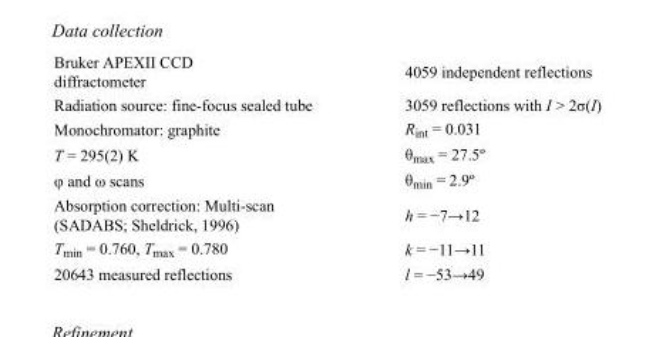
<table><tbody><tr><td>Bruker APEXII CCD diffractometer</td><td>4059 independent reflections</td></tr><tr><td>Radiation source: fine-focus sealed tube</td><td>3059 reflections with I &gt; 2σ(I)</td></tr><tr><td>Monochromator: graphite</td><td>R<sub>int</sub> = 0.031</td></tr><tr><td>T = 295(2) K</td><td>θ<sub>max</sub> = 27.5º</td></tr><tr><td>φ and ω scans</td><td>θ<sub>min</sub> = 2.9º</td></tr><tr><td>Absorption correction: Multi-scan (SADABS; Sheldrick, 1996)</td><td>h = −7→12</td></tr><tr><td>T<sub>min</sub> = 0.760, T<sub>max</sub> = 0.780</td><td>k = −11→11</td></tr><tr><td>20643 measured reflections</td><td>l = −53→49</td></tr></tbody></table>